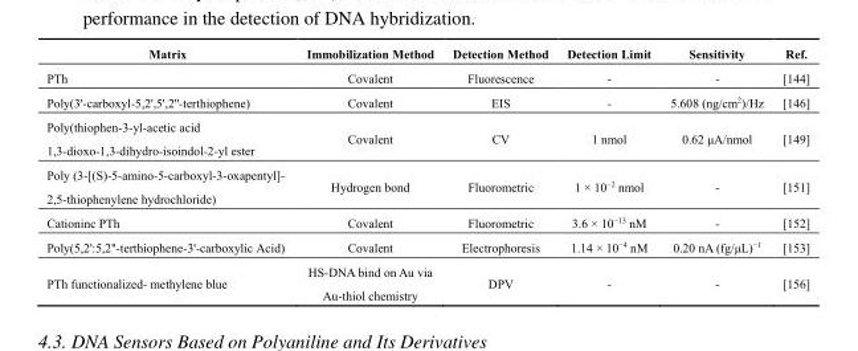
<table><thead><tr><td>Matrix</td><td>Immobilization Method</td><td>Detection Method</td><td>Detection Limit</td><td>Sensitivity</td><td>Ref.</td></tr></thead><tbody><tr><td>PTh</td><td>Covalent</td><td>Fluorescence</td><td>-</td><td>-</td><td>[144]</td></tr><tr><td>Poly(3&#x27;-carboxyl-5,2&#x27;,5&#x27;,2&#x27;&#x27;-terthiophene)</td><td>Covalent</td><td>EIS</td><td>-</td><td>5.608 (ng/cm<sup>2</sup>)/Hz</td><td>[146]</td></tr><tr><td>Poly(thiophen-3-yl-acetic acid 1,3-dioxo-1,3-dihydro-isoindol-2-yl ester</td><td>Covalent</td><td>CV</td><td>1 nmol</td><td>0.62 μA/nmol</td><td>[149]</td></tr><tr><td>Poly (3-[(S)-5-amino-5-carboxyl-3-oxapentyl]- 2,5-thiophenylene hydrochloride)</td><td>Hydrogen bond</td><td>Fluorometric</td><td>1 × 10<sup>−2</sup> nmol</td><td>-</td><td>[151]</td></tr><tr><td>Cationinc PTh</td><td>Covalent</td><td>Fluorometric</td><td>3.6 × 10<sup>−13</sup> nM</td><td>-</td><td>[152]</td></tr><tr><td>Poly(5,2&#x27;:5,2&#x27;&#x27;-terthiophene-3&#x27;-carboxylic Acid)</td><td>Covalent</td><td>Electrophoresis</td><td>1.14 × 10<sup>−4</sup> nM</td><td>0.20 nA (fg/μL)<sup>−1</sup></td><td>[153]</td></tr><tr><td>PTh functionalized- methylene blue</td><td>HS-DNA bind on Au via Au-thiol chemistry</td><td>DPV</td><td>-</td><td>-</td><td>[156]</td></tr></tbody></table>